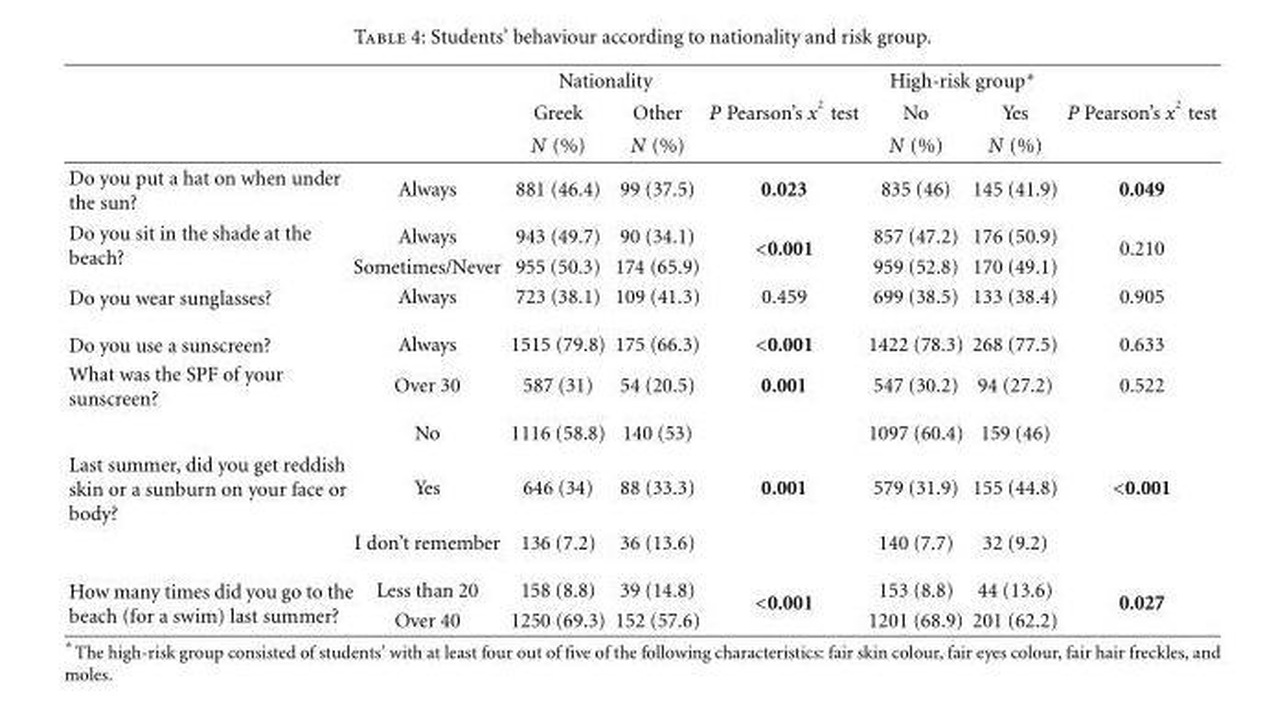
<table><thead><tr><td rowspan="3"></td><td rowspan="3"></td><td colspan="2">Nationality</td><td rowspan="3">P Pearson’s x <sup>2</sup> test</td><td colspan="2">High-risk group∗</td><td rowspan="3">P Pearson’s x <sup>2</sup> test</td></tr><tr><td rowspan="2">Greek N (%)</td><td rowspan="2">Other N (%)</td><td rowspan="2">No N (%)</td><td rowspan="2">Yes N (%)</td></tr><tr></tr></thead><tbody><tr><td>Do you put a hat on when under the sun?</td><td>Always</td><td>881 (46.4)</td><td>99 (37.5)</td><td>0.023</td><td>835 (46)</td><td>145 (41.9)</td><td>0.049</td></tr><tr><td rowspan="2">Do you sit in the shade at the beach?</td><td>Always</td><td>943 (49.7)</td><td>90 (34.1)</td><td rowspan="2">&lt;0.001</td><td>857 (47.2)</td><td>176 (50.9)</td><td rowspan="2">0.210</td></tr><tr><td>Sometimes/Never</td><td>955 (50.3)</td><td>174 (65.9)</td><td>959 (52.8)</td><td>170 (49.1)</td></tr><tr><td>Do you wear sunglasses?</td><td>Always</td><td>723 (38.1)</td><td>109 (41.3)</td><td>0.459</td><td>699 (38.5)</td><td>133 (38.4)</td><td>0.905</td></tr><tr><td>Do you use a sunscreen?</td><td>Always</td><td>1515 (79.8)</td><td>175 (66.3)</td><td>&lt;0.001</td><td>1422 (78.3)</td><td>268 (77.5)</td><td>0.633</td></tr><tr><td rowspan="2">What was the SPF of your sunscreen?</td><td>Over 30</td><td>587 (31)</td><td>54 (20.5)</td><td>0.001</td><td>547 (30.2)</td><td>94 (27.2)</td><td>0.522</td></tr><tr><td>No</td><td>1116 (58.8)</td><td>140 (53)</td><td></td><td>1097 (60.4)</td><td>159 (46)</td><td></td></tr><tr><td rowspan="2">Last summer, did you get reddish skin or a sunburn on your face or body?</td><td>Yes</td><td>646 (34)</td><td>88 (33.3)</td><td>0.001</td><td>579 (31.9)</td><td>155 (44.8)</td><td>&lt;0.001</td></tr><tr><td>I don’t remember</td><td>136 (7.2)</td><td>36 (13.6)</td><td></td><td>140 (7.7)</td><td>32 (9.2)</td><td></td></tr><tr><td rowspan="2">How many times did you go to the beach (for a swim) last summer?</td><td>Less than 20</td><td>158 (8.8)</td><td>39 (14.8)</td><td rowspan="2">&lt;0.001</td><td>153 (8.8)</td><td>44 (13.6)</td><td rowspan="2">0.027</td></tr><tr><td>Over 40</td><td>1250 (69.3)</td><td>152 (57.6)</td><td>1201 (68.9)</td><td>201 (62.2)</td></tr></tbody></table>